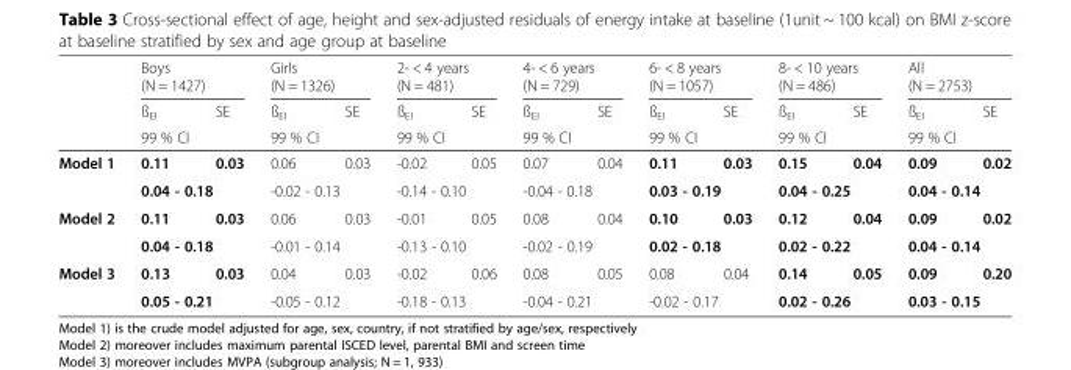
<table><thead><tr><td rowspan="4"></td><td rowspan="2" colspan="2">Boys (N = 1427)</td><td rowspan="2" colspan="2">Girls (N = 1326)</td><td rowspan="2" colspan="2">2- &lt; 4 years (N = 481)</td><td rowspan="2" colspan="2">4- &lt; 6 years (N = 729)</td><td rowspan="2" colspan="2">6- &lt; 8 years (N = 1057)</td><td rowspan="2" colspan="2">8- &lt; 10 years (N = 486)</td><td rowspan="2" colspan="2">All (N = 2753)</td></tr><tr></tr><tr><td rowspan="2">ß<sub>EI</sub> 99 % CI</td><td rowspan="2">SE</td><td rowspan="2">ß<sub>EI</sub> 99 % CI</td><td rowspan="2">SE</td><td rowspan="2">ß<sub>EI</sub> 99 % CI</td><td rowspan="2">SE</td><td rowspan="2">ß<sub>EI</sub> 99 % CI</td><td rowspan="2">SE</td><td rowspan="2">ß<sub>EI</sub> 99 % CI</td><td rowspan="2">SE</td><td rowspan="2">ß<sub>EI</sub> 99 % CI</td><td rowspan="2">SE</td><td rowspan="2">ß<sub>EI</sub> 99 % CI</td><td rowspan="2">SE</td></tr><tr></tr></thead><tbody><tr><td rowspan="2">Model 1</td><td>0.11</td><td>0.03</td><td>0.06</td><td>0.03</td><td>-0.02</td><td>0.05</td><td>0.07</td><td>0.04</td><td>0.11</td><td>0.03</td><td>0.15</td><td>0.04</td><td>0.09</td><td>0.02</td></tr><tr><td colspan="2">0.04 - 0.18</td><td colspan="2">-0.02 - 0.13</td><td colspan="2">-0.14 - 0.10</td><td colspan="2">-0.04 - 0.18</td><td colspan="2">0.03 - 0.19</td><td colspan="2">0.04 - 0.25</td><td colspan="2">0.04 - 0.14</td></tr><tr><td rowspan="2">Model 2</td><td>0.11</td><td>0.03</td><td>0.06</td><td>0.03</td><td>-0.01</td><td>0.05</td><td>0.08</td><td>0.04</td><td>0.10</td><td>0.03</td><td>0.12</td><td>0.04</td><td>0.09</td><td>0.02</td></tr><tr><td colspan="2">0.04 - 0.18</td><td colspan="2">-0.01 - 0.14</td><td colspan="2">-0.13 - 0.10</td><td colspan="2">-0.02 - 0.19</td><td colspan="2">0.02 - 0.18</td><td colspan="2">0.02 - 0.22</td><td colspan="2">0.04 - 0.14</td></tr><tr><td rowspan="2">Model 3</td><td>0.13</td><td>0.03</td><td>0.04</td><td>0.03</td><td>-0.02</td><td>0.06</td><td>0.08</td><td>0.05</td><td>0.08</td><td>0.04</td><td>0.14</td><td>0.05</td><td>0.09</td><td>0.20</td></tr><tr><td colspan="2">0.05 - 0.21</td><td colspan="2">-0.05 - 0.12</td><td colspan="2">-0.18 - 0.13</td><td colspan="2">-0.04 - 0.21</td><td colspan="2">-0.02 - 0.17</td><td colspan="2">0.02 - 0.26</td><td colspan="2">0.03 - 0.15</td></tr></tbody></table>